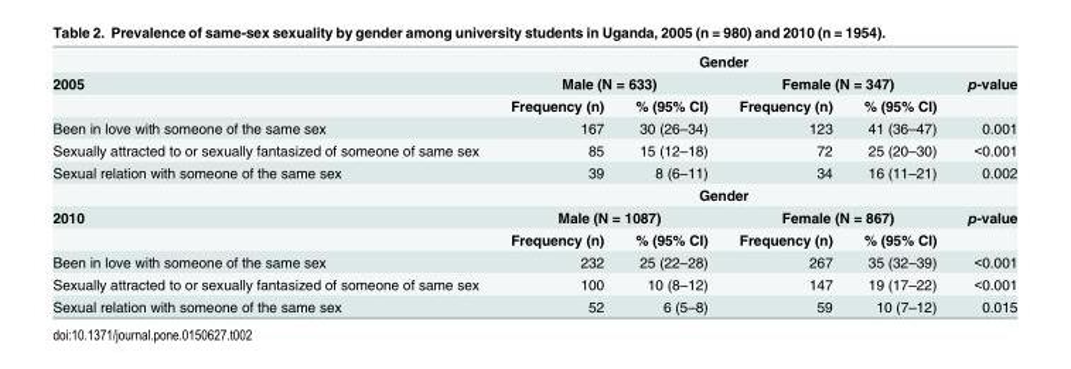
<table><thead><tr><td rowspan="3">2005</td><td colspan="4">Gender</td><td rowspan="3">p-value</td></tr><tr><td colspan="2">Male (N = 633)</td><td colspan="2">Female (N = 347)</td></tr><tr><td>Frequency (n)</td><td>% (95% CI)</td><td>Frequency (n)</td><td>% (95% CI)</td></tr></thead><tbody><tr><td>Been in love with someone of the same sex</td><td>167</td><td>30 (26–34)</td><td>123</td><td>41 (36–47)</td><td>0.001</td></tr><tr><td>Sexually attracted to or sexually fantasized of someone of same sex</td><td>85</td><td>15 (12–18)</td><td>72</td><td>25 (20–30)</td><td>&lt;0.001</td></tr><tr><td rowspan="2">Sexual relation with someone of the same sex</td><td>39</td><td>8 (6–11)</td><td>34</td><td>16 (11–21)</td><td>0.002</td></tr><tr><td colspan="4">Gender</td><td></td></tr><tr><td rowspan="2">2010</td><td colspan="2">Male (N = 1087)</td><td colspan="2">Female (N = 867)</td><td>p-value</td></tr><tr><td>Frequency (n)</td><td>% (95% CI)</td><td>Frequency (n)</td><td>% (95% CI)</td><td></td></tr><tr><td>Been in love with someone of the same sex</td><td>232</td><td>25 (22–28)</td><td>267</td><td>35 (32–39)</td><td>&lt;0.001</td></tr><tr><td>Sexually attracted to or sexually fantasized of someone of same sex</td><td>100</td><td>10 (8–12)</td><td>147</td><td>19 (17–22)</td><td>&lt;0.001</td></tr><tr><td>Sexual relation with someone of the same sex</td><td>52</td><td>6 (5–8)</td><td>59</td><td>10 (7–12)</td><td>0.015</td></tr></tbody></table>